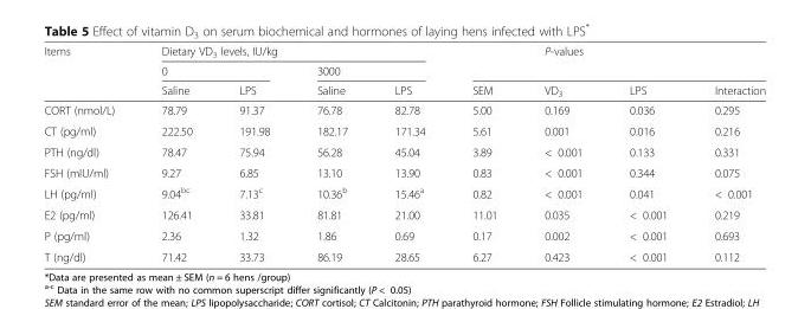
<table><thead><tr><td rowspan="3">Items</td><td colspan="4">Dietary VD<sub>3</sub> levels, IU/kg</td><td rowspan="3">SEM</td><td rowspan="2" colspan="3">P-values</td></tr><tr><td colspan="2">0</td><td colspan="2">3000</td></tr><tr><td>Saline</td><td>LPS</td><td>Saline</td><td>LPS</td><td>VD<sub>3</sub></td><td>LPS</td><td>Interaction</td></tr></thead><tbody><tr><td>CORT (nmol/L)</td><td>78.79</td><td>91.37</td><td>76.78</td><td>82.78</td><td>5.00</td><td>0.169</td><td>0.036</td><td>0.295</td></tr><tr><td>CT (pg/ml)</td><td>222.50</td><td>191.98</td><td>182.17</td><td>171.34</td><td>5.61</td><td>0.001</td><td>0.016</td><td>0.216</td></tr><tr><td>PTH (ng/dl)</td><td>78.47</td><td>75.94</td><td>56.28</td><td>45.04</td><td>3.89</td><td>&lt; 0.001</td><td>0.133</td><td>0.331</td></tr><tr><td>FSH (mIU/ml)</td><td>9.27</td><td>6.85</td><td>13.10</td><td>13.90</td><td>0.83</td><td>&lt; 0.001</td><td>0.344</td><td>0.075</td></tr><tr><td>LH (pg/ml)</td><td>9.04<sup>bc</sup></td><td>7.13<sup>c</sup></td><td>10.36<sup>b</sup></td><td>15.46<sup>a</sup></td><td>0.82</td><td>&lt; 0.001</td><td>0.041</td><td>&lt; 0.001</td></tr><tr><td>E2 (pg/ml)</td><td>126.41</td><td>33.81</td><td>81.81</td><td>21.00</td><td>11.01</td><td>0.035</td><td>&lt; 0.001</td><td>0.219</td></tr><tr><td>P (pg/ml)</td><td>2.36</td><td>1.32</td><td>1.86</td><td>0.69</td><td>0.17</td><td>0.002</td><td>&lt; 0.001</td><td>0.693</td></tr><tr><td>T (ng/dl)</td><td>71.42</td><td>33.73</td><td>86.19</td><td>28.65</td><td>6.27</td><td>0.423</td><td>&lt; 0.001</td><td>0.112</td></tr></tbody></table>